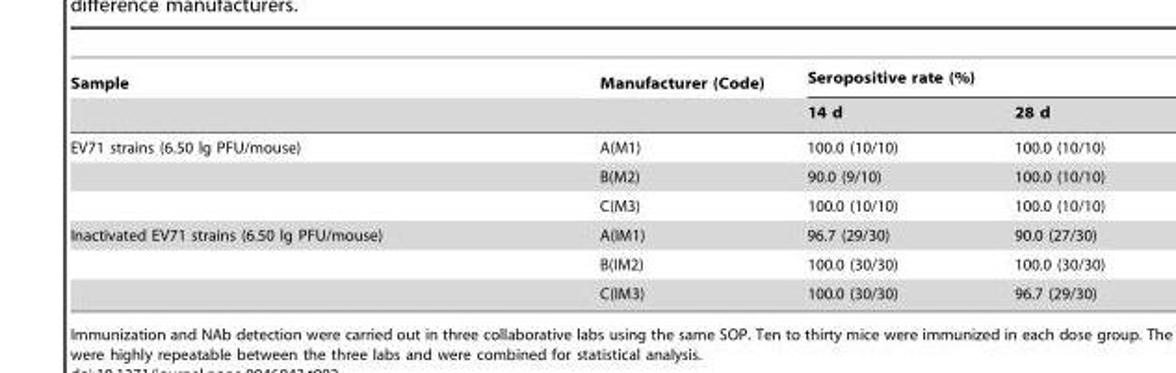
<table><thead><tr><td rowspan="2">Sample</td><td rowspan="2">Manufacturer (Code)</td><td colspan="2">Seropositive rate (%)</td></tr><tr><td>14 d</td><td>28 d</td></tr></thead><tbody><tr><td rowspan="3">EV71 strains (6.50 lg PFU/mouse)</td><td>A(M1)</td><td>100.0 (10/10)</td><td>100.0 (10/10)</td></tr><tr><td>B(M2)</td><td>90.0 (9/10)</td><td>100.0 (10/10)</td></tr><tr><td>C(M3)</td><td>100.0 (10/10)</td><td>100.0 (10/10)</td></tr><tr><td rowspan="3">Inactivated EV71 strains (6.50 lg PFU/mouse)</td><td>A(IM1)</td><td>96.7 (29/30)</td><td>90.0 (27/30)</td></tr><tr><td>B(IM2)</td><td>100.0 (30/30)</td><td>100.0 (30/30)</td></tr><tr><td>C(IM3)</td><td>100.0 (30/30)</td><td>96.7 (29/30)</td></tr></tbody></table>